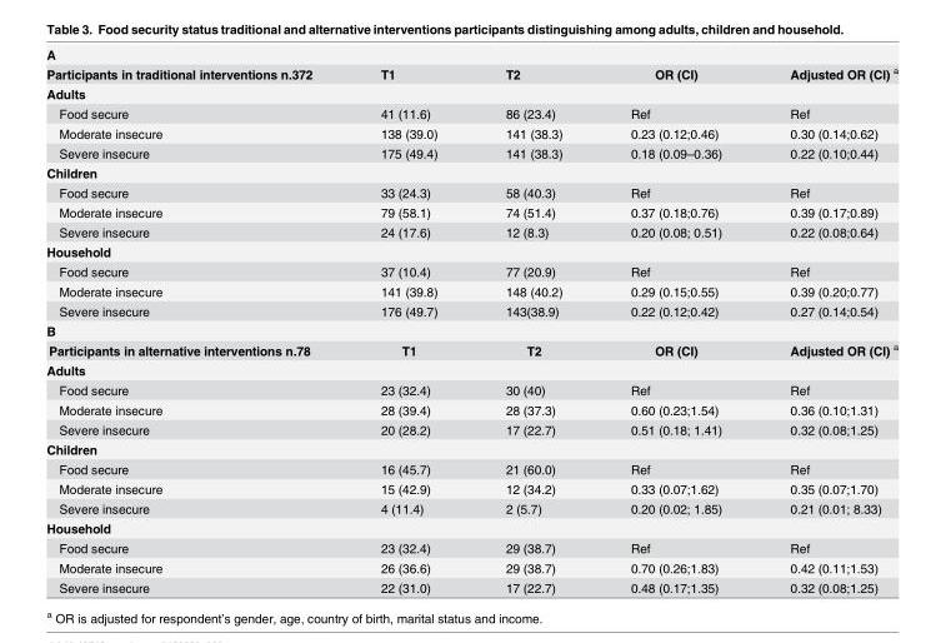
<table><tbody><tr><td colspan="5">A</td></tr><tr><td>Participants in traditional interventions n.372</td><td>T1</td><td>T2</td><td>OR (CI)</td><td>Adjusted OR (CI) <sup>a</sup></td></tr><tr><td colspan="5">Adults</td></tr><tr><td>Food secure</td><td>41 (11.6)</td><td>86 (23.4)</td><td>Ref</td><td>Ref</td></tr><tr><td>Moderate insecure</td><td>138 (39.0)</td><td>141 (38.3)</td><td>0.23 (0.12;0.46)</td><td>0.30 (0.14;0.62)</td></tr><tr><td>Severe insecure</td><td>175 (49.4)</td><td>141 (38.3)</td><td>0.18 (0.09–0.36)</td><td>0.22 (0.10;0.44)</td></tr><tr><td colspan="5">Children</td></tr><tr><td>Food secure</td><td>33 (24.3)</td><td>58 (40.3)</td><td>Ref</td><td>Ref</td></tr><tr><td>Moderate insecure</td><td>79 (58.1)</td><td>74 (51.4)</td><td>0.37 (0.18;0.76)</td><td>0.39 (0.17;0.89)</td></tr><tr><td>Severe insecure</td><td>24 (17.6)</td><td>12 (8.3)</td><td>0.20 (0.08; 0.51)</td><td>0.22 (0.08;0.64)</td></tr><tr><td colspan="5">Household</td></tr><tr><td>Food secure</td><td>37 (10.4)</td><td>77 (20.9)</td><td>Ref</td><td>Ref</td></tr><tr><td>Moderate insecure</td><td>141 (39.8)</td><td>148 (40.2)</td><td>0.29 (0.15;0.55)</td><td>0.39 (0.20;0.77)</td></tr><tr><td>Severe insecure</td><td>176 (49.7)</td><td>143(38.9)</td><td>0.22 (0.12;0.42)</td><td>0.27 (0.14;0.54)</td></tr><tr><td colspan="5">B</td></tr><tr><td>Participants in alternative interventions n.78</td><td>T1</td><td>T2</td><td>OR (CI)</td><td>Adjusted OR (CI) <sup>a</sup></td></tr><tr><td colspan="5">Adults</td></tr><tr><td>Food secure</td><td>23 (32.4)</td><td>30 (40)</td><td>Ref</td><td>Ref</td></tr><tr><td>Moderate insecure</td><td>28 (39.4)</td><td>28 (37.3)</td><td>0.60 (0.23;1.54)</td><td>0.36 (0.10;1.31)</td></tr><tr><td>Severe insecure</td><td>20 (28.2)</td><td>17 (22.7)</td><td>0.51 (0.18; 1.41)</td><td>0.32 (0.08;1.25)</td></tr><tr><td colspan="5">Children</td></tr><tr><td>Food secure</td><td>16 (45.7)</td><td>21 (60.0)</td><td>Ref</td><td>Ref</td></tr><tr><td>Moderate insecure</td><td>15 (42.9)</td><td>12 (34.2)</td><td>0.33 (0.07;1.62)</td><td>0.35 (0.07;1.70)</td></tr><tr><td>Severe insecure</td><td>4 (11.4)</td><td>2 (5.7)</td><td>0.20 (0.02; 1.85)</td><td>0.21 (0.01; 8.33)</td></tr><tr><td colspan="5">Household</td></tr><tr><td>Food secure</td><td>23 (32.4)</td><td>29 (38.7)</td><td>Ref</td><td>Ref</td></tr><tr><td>Moderate insecure</td><td>26 (36.6)</td><td>29 (38.7)</td><td>0.70 (0.26;1.83)</td><td>0.42 (0.11;1.53)</td></tr><tr><td>Severe insecure</td><td>22 (31.0)</td><td>17 (22.7)</td><td>0.48 (0.17;1.35)</td><td>0.32 (0.08;1.25)</td></tr></tbody></table>